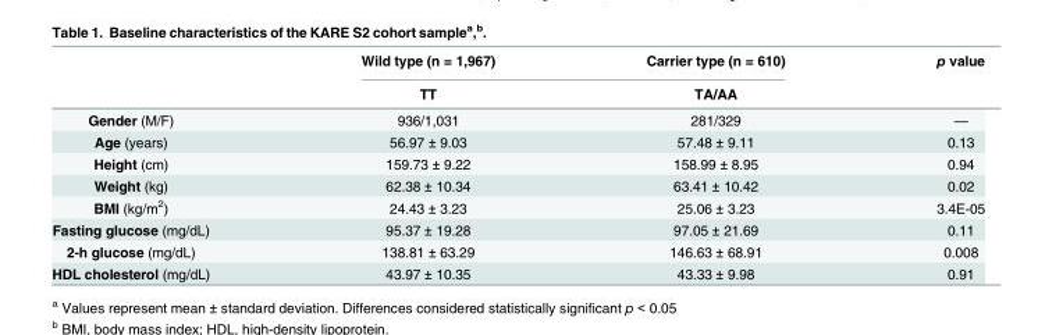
<table><thead><tr><td rowspan="2"></td><td rowspan="2">Wild type (n = 1,967) TT</td><td rowspan="2">Carrier type (n = 610) TA/AA</td><td rowspan="2">p value</td></tr><tr></tr></thead><tbody><tr><td>Gender (M/F)</td><td>936/1,031</td><td>281/329</td><td>—</td></tr><tr><td>Age (years)</td><td>56.97 ± 9.03</td><td>57.48 ± 9.11</td><td>0.13</td></tr><tr><td>Height (cm)</td><td>159.73 ± 9.22</td><td>158.99 ± 8.95</td><td>0.94</td></tr><tr><td>Weight (kg)</td><td>62.38 ± 10.34</td><td>63.41 ± 10.42</td><td>0.02</td></tr><tr><td>BMI (kg/m<sup>2</sup>)</td><td>24.43 ± 3.23</td><td>25.06 ± 3.23</td><td>3.4E-05</td></tr><tr><td>Fasting glucose (mg/dL)</td><td>95.37 ± 19.28</td><td>97.05 ± 21.69</td><td>0.11</td></tr><tr><td>2-h glucose (mg/dL)</td><td>138.81 ± 63.29</td><td>146.63 ± 68.91</td><td>0.008</td></tr><tr><td>HDL cholesterol (mg/dL)</td><td>43.97 ± 10.35</td><td>43.33 ± 9.98</td><td>0.91</td></tr></tbody></table>